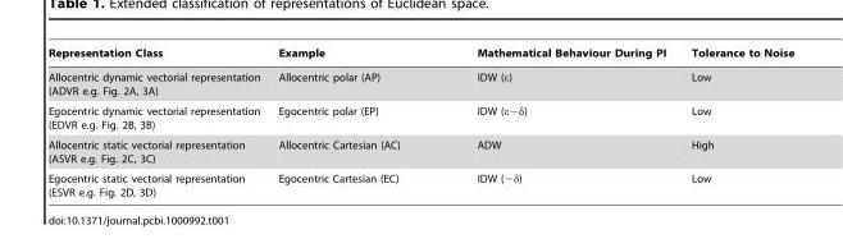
<table><thead><tr><td>Representation Class</td><td>Example</td><td>Mathematical Behaviour During PI</td><td>Tolerance to Noise</td></tr></thead><tbody><tr><td>Allocentric dynamic vectorial representation (ADVR e.g. Fig. 2A, 3A)</td><td>Allocentric polar (AP)</td><td>IDW (ε)</td><td>Low</td></tr><tr><td>Egocentric dynamic vectorial representation (EDVR e.g. Fig. 2B, 3B)</td><td>Egocentric polar (EP)</td><td>IDW (ε−δ)</td><td>Low</td></tr><tr><td>Allocentric static vectorial representation (ASVR e.g. Fig. 2C, 3C)</td><td>Allocentric Cartesian (AC)</td><td>ADW</td><td>High</td></tr><tr><td>Egocentric static vectorial representation (ESVR e.g. Fig. 2D, 3D)</td><td>Egocentric Cartesian (EC)</td><td>IDW (−δ)</td><td>Low</td></tr></tbody></table>